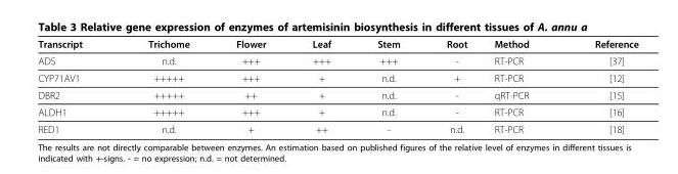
<table><thead><tr><td>Transcript</td><td>Trichome</td><td>Flower</td><td>Leaf</td><td>Stem</td><td>Root</td><td>Method</td><td>Reference</td></tr></thead><tbody><tr><td>ADS</td><td>n.d.</td><td>+++</td><td>+++</td><td>+++</td><td>-</td><td>RT-PCR</td><td>[37]</td></tr><tr><td>CYP71AV1</td><td>+++++</td><td>+++</td><td>+</td><td>n.d.</td><td>+</td><td>RT-PCR</td><td>[12]</td></tr><tr><td>DBR2</td><td>+++++</td><td>++</td><td>+</td><td>n.d.</td><td>-</td><td>qRT-PCR</td><td>[15]</td></tr><tr><td>ALDH1</td><td>+++++</td><td>+++</td><td>+</td><td>n.d.</td><td>-</td><td>RT-PCR</td><td>[16]</td></tr><tr><td>RED1</td><td>n.d.</td><td>+</td><td>++</td><td>-</td><td>n.d.</td><td>RT-PCR</td><td>[18]</td></tr></tbody></table>